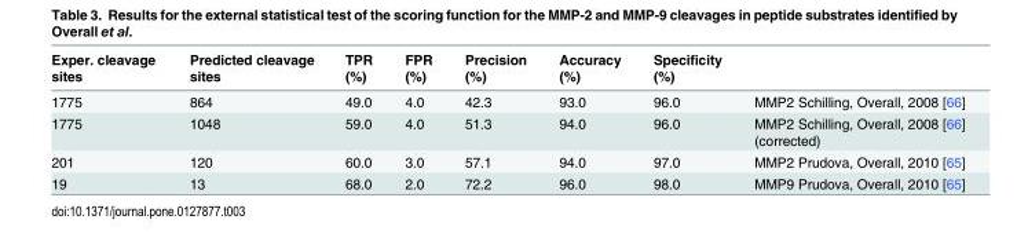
<table><thead><tr><td>Exper. cleavage sites</td><td>Predicted cleavage sites</td><td>TPR (%)</td><td>FPR (%)</td><td>Precision (%)</td><td>Accuracy (%)</td><td>Specificity (%)</td><td></td></tr></thead><tbody><tr><td>1775</td><td>864</td><td>49.0</td><td>4.0</td><td>42.3</td><td>93.0</td><td>96.0</td><td>MMP2 Schilling, Overall, 2008 [66]</td></tr><tr><td>1775</td><td>1048</td><td>59.0</td><td>4.0</td><td>51.3</td><td>94.0</td><td>96.0</td><td>MMP2 Schilling, Overall, 2008 [66] (corrected)</td></tr><tr><td>201</td><td>120</td><td>60.0</td><td>3.0</td><td>57.1</td><td>94.0</td><td>97.0</td><td>MMP2 Prudova, Overall, 2010 [65]</td></tr><tr><td>19</td><td>13</td><td>68.0</td><td>2.0</td><td>72.2</td><td>96.0</td><td>98.0</td><td>MMP9 Prudova, Overall, 2010 [65]</td></tr></tbody></table>